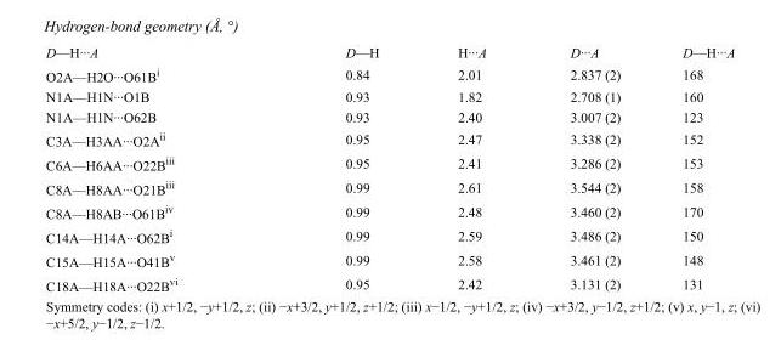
<table><tbody><tr><td>D—H···A</td><td>D—H</td><td>H···A</td><td>D···A</td><td>D—H···A</td></tr><tr><td>O2A—H2O···O61B<sup>i</sup></td><td>0.84</td><td>2.01</td><td>2.837 (2)</td><td>168</td></tr><tr><td>N1A—H1N···O1B</td><td>0.93</td><td>1.82</td><td>2.708 (1)</td><td>160</td></tr><tr><td>N1A—H1N···O62B</td><td>0.93</td><td>2.40</td><td>3.007 (2)</td><td>123</td></tr><tr><td>C3A—H3AA···O2A<sup>ii</sup></td><td>0.95</td><td>2.47</td><td>3.338 (2)</td><td>152</td></tr><tr><td>C6A—H6AA···O22B<sup>iii</sup></td><td>0.95</td><td>2.41</td><td>3.286 (2)</td><td>153</td></tr><tr><td>C8A—H8AA···O21B<sup>iii</sup></td><td>0.99</td><td>2.61</td><td>3.544 (2)</td><td>158</td></tr><tr><td>C8A—H8AB···O61B<sup>iv</sup></td><td>0.99</td><td>2.48</td><td>3.460 (2)</td><td>170</td></tr><tr><td>C14A—H14A···O62B<sup>i</sup></td><td>0.99</td><td>2.59</td><td>3.486 (2)</td><td>150</td></tr><tr><td>C15A—H15A···O41B<sup>v</sup></td><td>0.99</td><td>2.58</td><td>3.461 (2)</td><td>148</td></tr><tr><td>C18A—H18A···O22B<sup>vi</sup></td><td>0.95</td><td>2.42</td><td>3.131 (2)</td><td>131</td></tr></tbody></table>